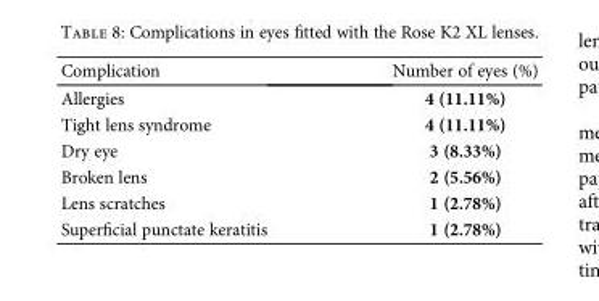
<table><thead><tr><td>Complication</td><td>Number of eyes (%)</td></tr></thead><tbody><tr><td>Allergies</td><td>4 (11.11%)</td></tr><tr><td>Tight lens syndrome</td><td>4 (11.11%)</td></tr><tr><td>Dry eye</td><td>3 (8.33%)</td></tr><tr><td>Broken lens</td><td>2 (5.56%)</td></tr><tr><td>Lens scratches</td><td>1 (2.78%)</td></tr><tr><td>Superficial punctate keratitis</td><td>1 (2.78%)</td></tr></tbody></table>